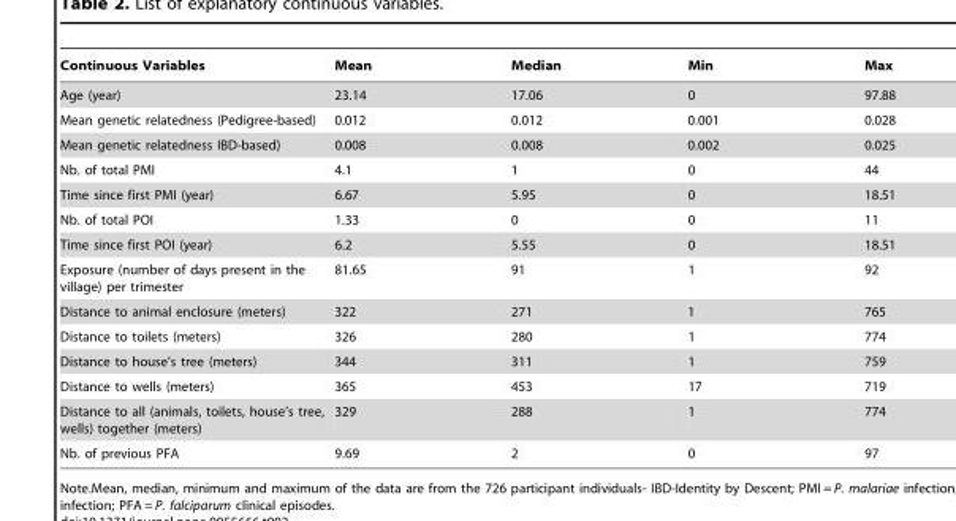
<table><thead><tr><td>Continuous Variables</td><td>Mean</td><td>Median</td><td>Min</td><td>Max</td></tr></thead><tbody><tr><td>Age (year)</td><td>23.14</td><td>17.06</td><td>0</td><td>97.88</td></tr><tr><td>Mean genetic relatedness (Pedigree-based)</td><td>0.012</td><td>0.012</td><td>0.001</td><td>0.028</td></tr><tr><td>Mean genetic relatedness IBD-based)</td><td>0.008</td><td>0.008</td><td>0.002</td><td>0.025</td></tr><tr><td>Nb. of total PMI</td><td>4.1</td><td>1</td><td>0</td><td>44</td></tr><tr><td>Time since first PMI (year)</td><td>6.67</td><td>5.95</td><td>0</td><td>18.51</td></tr><tr><td>Nb. of total POI</td><td>1.33</td><td>0</td><td>0</td><td>11</td></tr><tr><td>Time since first POI (year)</td><td>6.2</td><td>5.55</td><td>0</td><td>18.51</td></tr><tr><td>Exposure (number of days present in the village) per trimester</td><td>81.65</td><td>91</td><td>1</td><td>92</td></tr><tr><td>Distance to animal enclosure (meters)</td><td>322</td><td>271</td><td>1</td><td>765</td></tr><tr><td>Distance to toilets (meters)</td><td>326</td><td>280</td><td>1</td><td>774</td></tr><tr><td>Distance to house’s tree (meters)</td><td>344</td><td>311</td><td>1</td><td>759</td></tr><tr><td>Distance to wells (meters)</td><td>365</td><td>453</td><td>17</td><td>719</td></tr><tr><td>Distance to all (animals, toilets, house’s tree, wells) together (meters)</td><td>329</td><td>288</td><td>1</td><td>774</td></tr><tr><td>Nb. of previous PFA</td><td>9.69</td><td>2</td><td>0</td><td>97</td></tr></tbody></table>